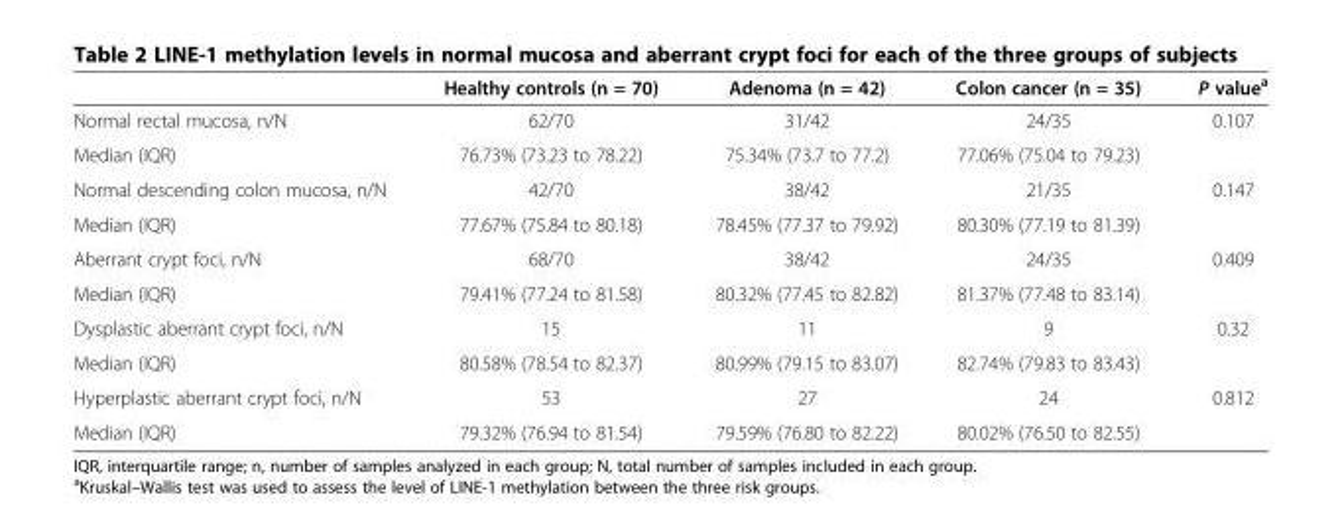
<table><thead><tr><td></td><td>Healthy controls (n = 70)</td><td>Adenoma (n = 42)</td><td>Colon cancer (n = 35)</td><td>P value<sup>a</sup></td></tr></thead><tbody><tr><td>Normal rectal mucosa, n/N</td><td>62/70</td><td>31/42</td><td>24/35</td><td rowspan="2">0.107</td></tr><tr><td>Median (IQR)</td><td>76.73% (73.23 to 78.22)</td><td>75.34% (73.7 to 77.2)</td><td>77.06% (75.04 to 79.23)</td></tr><tr><td>Normal descending colon mucosa, n/N</td><td>42/70</td><td>38/42</td><td>21/35</td><td rowspan="2">0.147</td></tr><tr><td>Median (IQR)</td><td>77.67% (75.84 to 80.18)</td><td>78.45% (77.37 to 79.92)</td><td>80.30% (77.19 to 81.39)</td></tr><tr><td>Aberrant crypt foci, n/N</td><td>68/70</td><td>38/42</td><td>24/35</td><td rowspan="2">0.409</td></tr><tr><td>Median (IQR)</td><td>79.41% (77.24 to 81.58)</td><td>80.32% (77.45 to 82.82)</td><td>81.37% (77.48 to 83.14)</td></tr><tr><td>Dysplastic aberrant crypt foci, n/N</td><td>15</td><td>11</td><td>9</td><td rowspan="2">0.32</td></tr><tr><td>Median (IQR)</td><td>80.58% (78.54 to 82.37)</td><td>80.99% (79.15 to 83.07)</td><td>82.74% (79.83 to 83.43)</td></tr><tr><td>Hyperplastic aberrant crypt foci, n/N</td><td>53</td><td>27</td><td>24</td><td>0.812</td></tr><tr><td>Median (IQR)</td><td>79.32% (76.94 to 81.54)</td><td>79.59% (76.80 to 82.22)</td><td>80.02% (76.50 to 82.55)</td><td></td></tr></tbody></table>